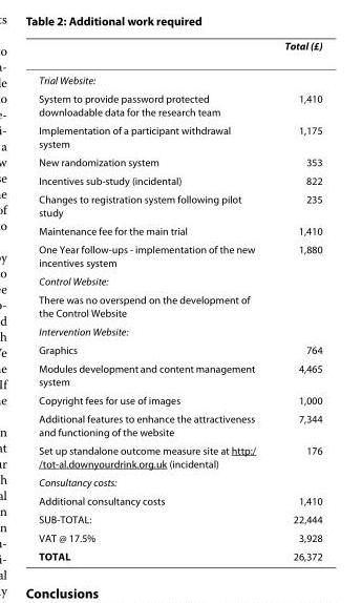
<table><thead><tr><td></td><td>Total (£)</td></tr></thead><tbody><tr><td colspan="2">Trial Website:</td></tr><tr><td>System to provide password protected downloadable data for the research team</td><td>1,410</td></tr><tr><td>Implementation of a participant withdrawal system</td><td>1,175</td></tr><tr><td>New randomization system</td><td>353</td></tr><tr><td>Incentives sub-study (incidental)</td><td>822</td></tr><tr><td>Changes to registration system following pilot study</td><td>235</td></tr><tr><td>Maintenance fee for the main trial</td><td>1,410</td></tr><tr><td>One Year follow-ups - implementation of the new incentives system</td><td>1,880</td></tr><tr><td colspan="2">Control Website:</td></tr><tr><td colspan="2">There was no overspend on the development of the Control Website</td></tr><tr><td colspan="2">Intervention Website:</td></tr><tr><td>Graphics</td><td>764</td></tr><tr><td>Modules development and content management system</td><td>4,465</td></tr><tr><td>Copyright fees for use of images</td><td>1,000</td></tr><tr><td>Additional features to enhance the attractiveness and functioning of the website</td><td>7,344</td></tr><tr><td>Set up standalone outcome measure site at http:/ /tot-al.downyourdrink.org.uk (incidental)</td><td>176</td></tr><tr><td colspan="2">Consultancy costs:</td></tr><tr><td>Additional consultancy costs</td><td>1,410</td></tr><tr><td>SUB-TOTAL:</td><td>22,444</td></tr><tr><td>VAT @ 17.5%</td><td>3,928</td></tr><tr><td>TOTAL</td><td>26,372</td></tr></tbody></table>